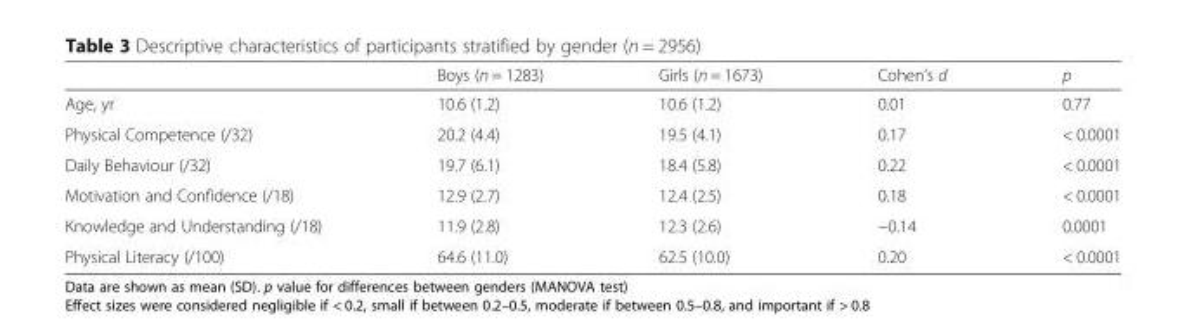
<table><thead><tr><td></td><td>Boys (n = 1283)</td><td>Girls (n = 1673)</td><td>Cohen’s d</td><td>p</td></tr></thead><tbody><tr><td>Age, yr</td><td>10.6 (1.2)</td><td>10.6 (1.2)</td><td>0.01</td><td>0.77</td></tr><tr><td>Physical Competence (/32)</td><td>20.2 (4.4)</td><td>19.5 (4.1)</td><td>0.17</td><td>&lt; 0.0001</td></tr><tr><td>Daily Behaviour (/32)</td><td>19.7 (6.1)</td><td>18.4 (5.8)</td><td>0.22</td><td>&lt; 0.0001</td></tr><tr><td>Motivation and Confidence (/18)</td><td>12.9 (2.7)</td><td>12.4 (2.5)</td><td>0.18</td><td>&lt; 0.0001</td></tr><tr><td>Knowledge and Understanding (/18)</td><td>11.9 (2.8)</td><td>12.3 (2.6)</td><td>−0.14</td><td>0.0001</td></tr><tr><td>Physical Literacy (/100)</td><td>64.6 (11.0)</td><td>62.5 (10.0)</td><td>0.20</td><td>&lt; 0.0001</td></tr></tbody></table>